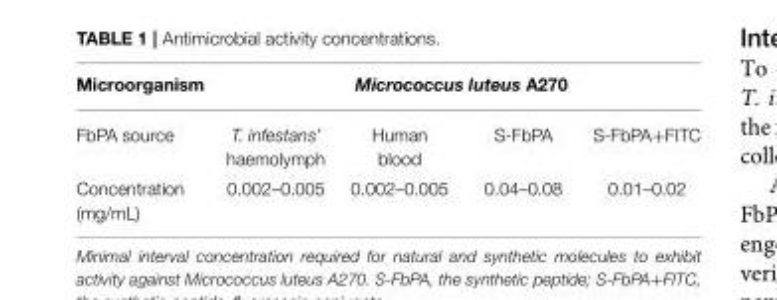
<table><thead><tr><td rowspan="2">Microorganism FbPA source</td><td colspan="4">Micrococcus luteus A270</td></tr><tr><td>T. infestans’ haemolymph</td><td>Human blood</td><td>S-FbPA</td><td>S-FbPA+FITC</td></tr></thead><tbody><tr><td>Concentration (mg/mL)</td><td>0.002–0.005</td><td>0.002–0.005</td><td>0.04–0.08</td><td>0.01–0.02</td></tr></tbody></table>